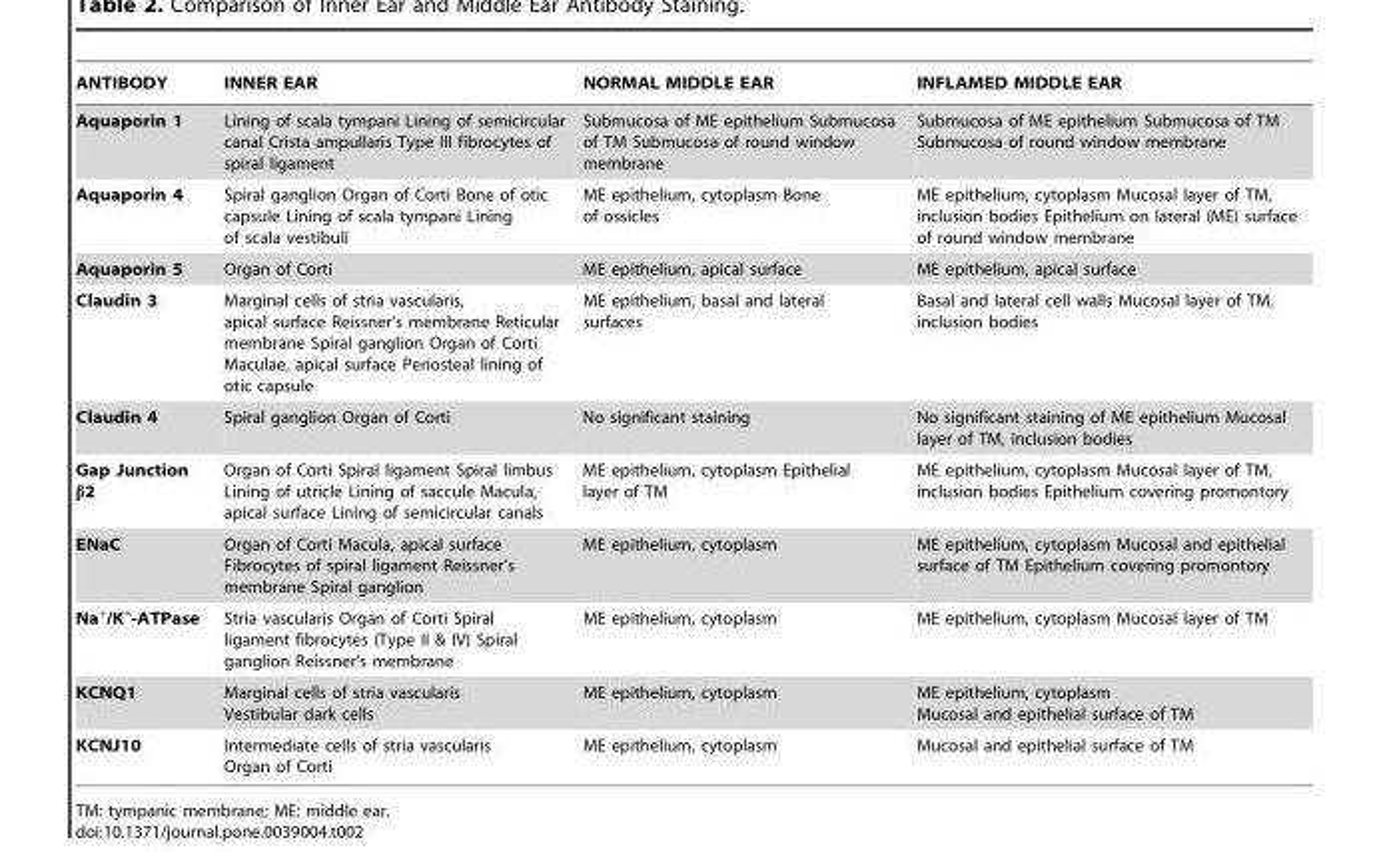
<table><thead><tr><td>ANTIBODY</td><td>INNER EAR</td><td>NORMAL MIDDLE EAR</td><td>INFLAMED MIDDLE EAR</td></tr></thead><tbody><tr><td>Aquaporin 1</td><td>Lining of scala tympani Lining of semicircular canal Crista ampullaris Type III fibrocytes of spiral ligament</td><td>Submucosa of ME epithelium Submucosa of TM Submucosa of round window membrane</td><td>Submucosa of ME epithelium Submucosa of TM Submucosa of round window membrane</td></tr><tr><td>Aquaporin 4</td><td>Spiral ganglion Organ of Corti Bone of otic capsule Lining of scala tympani Lining of scala vestibuli</td><td>ME epithelium, cytoplasm Bone of ossicles</td><td>ME epithelium, cytoplasm Mucosal layer of TM, inclusion bodies Epithelium on lateral (ME) surface of round window membrane</td></tr><tr><td>Aquaporin 5</td><td>Organ of Corti</td><td>ME epithelium, apical surface</td><td>ME epithelium, apical surface</td></tr><tr><td>Claudin 3</td><td>Marginal cells of stria vascularis, apical surface Reissner’s membrane Reticular membrane Spiral ganglion Organ of Corti Maculae, apical surface Periosteal lining of otic capsule</td><td>ME epithelium, basal and lateral surfaces</td><td>Basal and lateral cell walls Mucosal layer of TM, inclusion bodies</td></tr><tr><td>Claudin 4</td><td>Spiral ganglion Organ of Corti</td><td>No significant staining</td><td>No significant staining of ME epithelium Mucosal layer of TM, inclusion bodies</td></tr><tr><td>Gap Junction β2</td><td>Organ of Corti Spiral ligament Spiral limbus Lining of utricle Lining of saccule Macula, apical surface Lining of semicircular canals</td><td>ME epithelium, cytoplasm Epithelial layer of TM</td><td>ME epithelium, cytoplasm Mucosal layer of TM, inclusion bodies Epithelium covering promontory</td></tr><tr><td>ENaC</td><td>Organ of Corti Macula, apical surface Fibrocytes of spiral ligament Reissner’s membrane Spiral ganglion</td><td>ME epithelium, cytoplasm</td><td>ME epithelium, cytoplasm Mucosal and epithelial surface of TM Epithelium covering promontory</td></tr><tr><td>Na<sup>+</sup>/K<sup>+</sup>-ATPase</td><td>Stria vascularis Organ of Corti Spiral ligament fibrocytes (Type II &amp; IV) Spiral ganglion Reissner’s membrane</td><td>ME epithelium, cytoplasm</td><td>ME epithelium, cytoplasm Mucosal layer of TM</td></tr><tr><td>KCNQ1</td><td>Marginal cells of stria vascularis Vestibular dark cells</td><td>ME epithelium, cytoplasm</td><td>ME epithelium, cytoplasm Mucosal and epithelial surface of TM</td></tr><tr><td>KCNJ10</td><td>Intermediate cells of stria vascularis Organ of Corti</td><td>ME epithelium, cytoplasm</td><td>Mucosal and epithelial surface of TM</td></tr></tbody></table>